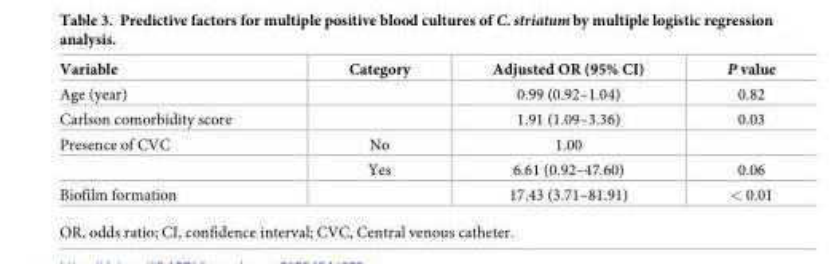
<table><thead><tr><td>Variable</td><td>Category</td><td>Adjusted OR (95% CI)</td><td>P value</td></tr></thead><tbody><tr><td>Age (year)</td><td></td><td>0.99 (0.92–1.04)</td><td>0.82</td></tr><tr><td>Carlson comorbidity score</td><td></td><td>1.91 (1.09–3.36)</td><td>0.03</td></tr><tr><td rowspan="2">Presence of CVC</td><td>No</td><td>1.00</td><td></td></tr><tr><td>Yes</td><td>6.61 (0.92–47.60)</td><td>0.06</td></tr><tr><td>Biofilm formation</td><td></td><td>17.43 (3.71–81.91)</td><td>&lt; 0.01</td></tr></tbody></table>